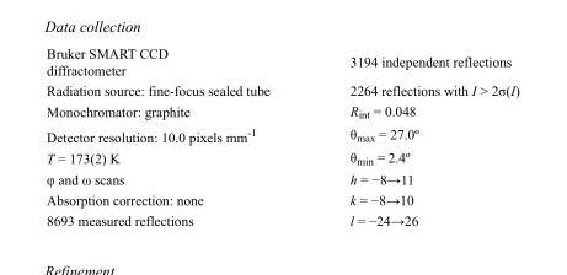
<table><tbody><tr><td>Bruker SMART CCD diffractometer</td><td>3194 independent reflections</td></tr><tr><td>Radiation source: fine-focus sealed tube</td><td>2264 reflections with I &gt; 2σ(I)</td></tr><tr><td>Monochromator: graphite</td><td>R<sub>int</sub> = 0.048</td></tr><tr><td>Detector resolution: 10.0 pixels mm<sup>-1</sup></td><td>θ<sub>max</sub> = 27.0º</td></tr><tr><td>T = 173(2) K</td><td>θ<sub>min</sub> = 2.4º</td></tr><tr><td>φ and ω scans</td><td>h = −8→11</td></tr><tr><td>Absorption correction: none</td><td>k = −8→10</td></tr><tr><td>8693 measured reflections</td><td>l = −24→26</td></tr></tbody></table>